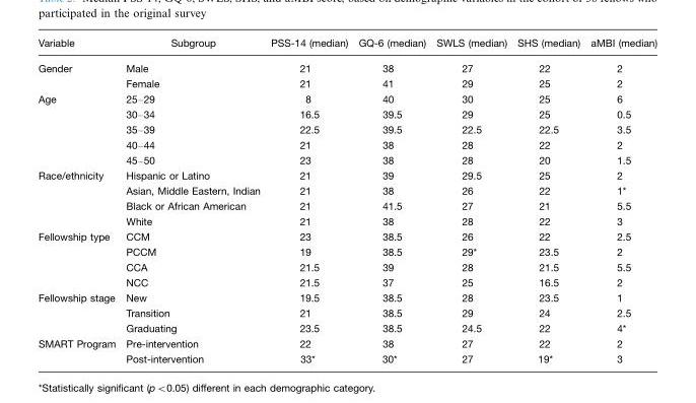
<table><thead><tr><td>Variable</td><td>Subgroup</td><td>PSS-14 (median)</td><td>GQ-6 (median)</td><td>SWLS (median)</td><td>SHS (median)</td><td>aMBI (median)</td></tr></thead><tbody><tr><td rowspan="2">Gender</td><td>Male</td><td>21</td><td>38</td><td>27</td><td>22</td><td>2</td></tr><tr><td>Female</td><td>21</td><td>41</td><td>29</td><td>25</td><td>2</td></tr><tr><td rowspan="5">Age</td><td>25–29</td><td>8</td><td>40</td><td>30</td><td>25</td><td>6</td></tr><tr><td>30–34</td><td>16.5</td><td>39.5</td><td>29</td><td>25</td><td>0.5</td></tr><tr><td>35–39</td><td>22.5</td><td>39.5</td><td>22.5</td><td>22.5</td><td>3.5</td></tr><tr><td>40–44</td><td>21</td><td>38</td><td>28</td><td>22</td><td>2</td></tr><tr><td>45–50</td><td>23</td><td>38</td><td>28</td><td>20</td><td>1.5</td></tr><tr><td rowspan="4">Race/ethnicity</td><td>Hispanic or Latino</td><td>21</td><td>39</td><td>29.5</td><td>25</td><td>2</td></tr><tr><td>Asian, Middle Eastern, Indian</td><td>21</td><td>38</td><td>26</td><td>22</td><td>1*</td></tr><tr><td>Black or African American</td><td>21</td><td>41.5</td><td>27</td><td>21</td><td>5.5</td></tr><tr><td>White</td><td>21</td><td>38</td><td>28</td><td>22</td><td>3</td></tr><tr><td rowspan="4">Fellowship type</td><td>CCM</td><td>23</td><td>38.5</td><td>26</td><td>22</td><td>2.5</td></tr><tr><td>PCCM</td><td>19</td><td>38.5</td><td>29*</td><td>23.5</td><td>2</td></tr><tr><td>CCA</td><td>21.5</td><td>39</td><td>28</td><td>21.5</td><td>5.5</td></tr><tr><td>NCC</td><td>21.5</td><td>37</td><td>25</td><td>16.5</td><td>2</td></tr><tr><td rowspan="3">Fellowship stage</td><td>New</td><td>19.5</td><td>38.5</td><td>28</td><td>23.5</td><td>1</td></tr><tr><td>Transition</td><td>21</td><td>38.5</td><td>29</td><td>24</td><td>2.5</td></tr><tr><td>Graduating</td><td>23.5</td><td>38.5</td><td>24.5</td><td>22</td><td>4*</td></tr><tr><td rowspan="2">SMART Program</td><td>Pre-intervention</td><td>22</td><td>38</td><td>27</td><td>22</td><td>2</td></tr><tr><td>Post-intervention</td><td>33*</td><td>30*</td><td>27</td><td>19*</td><td>3</td></tr></tbody></table>